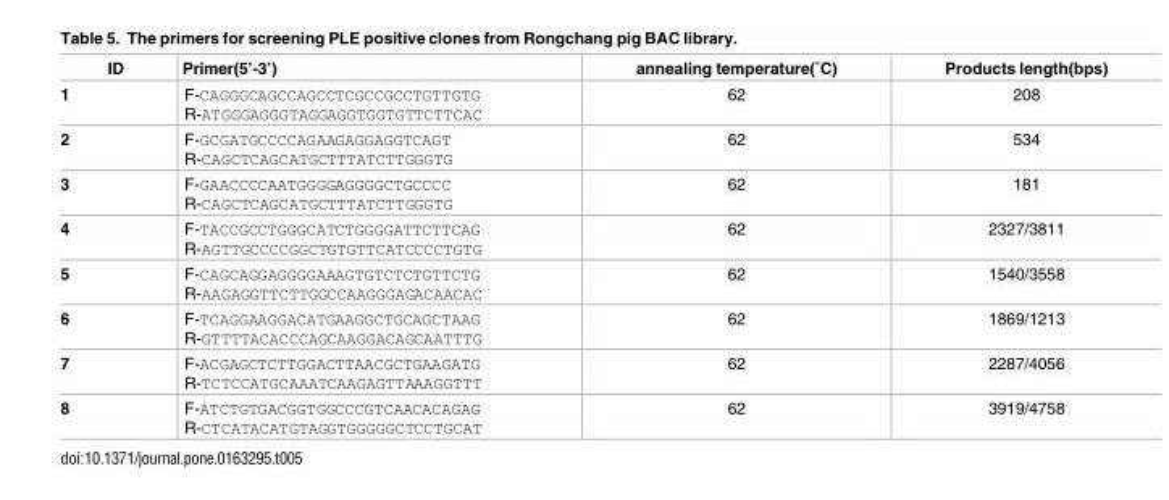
<table><thead><tr><td>ID</td><td>Primer(5’-3’)</td><td>annealing temperature(˚C)</td><td>Products length(bps)</td></tr></thead><tbody><tr><td>1</td><td>F-CAGGGCAGCCAGCCTCGCCGCCTGTTGTG R-ATGGGAGGGTAGGAGGTGGTGTTCTTCAC</td><td>62</td><td>208</td></tr><tr><td>2</td><td>F-GCGATGCCCCAGAAGAGGAGGTCAGT R-CAGCTCAGCATGCTTTATCTTGGGTG</td><td>62</td><td>534</td></tr><tr><td>3</td><td>F-GAACCCCAATGGGGAGGGGCTGCCCC R-CAGCTCAGCATGCTTTATCTTGGGTG</td><td>62</td><td>181</td></tr><tr><td>4</td><td>F-TACCGCCTGGGCATCTGGGGATTCTTCAG R-AGTTGCCCCGGCTGTGTTCATCCCCTGTG</td><td>62</td><td>2327/3811</td></tr><tr><td>5</td><td>F-CAGCAGGAGGGGAAAGTGTCTCTGTTCTG R-AAGAGGTTCTTGGCCAAGGGAGACAACAC</td><td>62</td><td>1540/3558</td></tr><tr><td>6</td><td>F-TCAGGAAGGACATGAAGGCTGCAGCTAAG R-GTTTTACACCCAGCAAGGACAGCAATTTG</td><td>62</td><td>1869/1213</td></tr><tr><td>7</td><td>F-ACGAGCTCTTGGACTTAACGCTGAAGATG R-TCTCCATGCAAATCAAGAGTTAAAGGTTT</td><td>62</td><td>2287/4056</td></tr><tr><td>8</td><td>F-ATCTGTGACGGTGGCCCGTCAACACAGAG R-CTCATACATGTAGGTGGGGGCTCCTGCAT</td><td>62</td><td>3919/4758</td></tr></tbody></table>